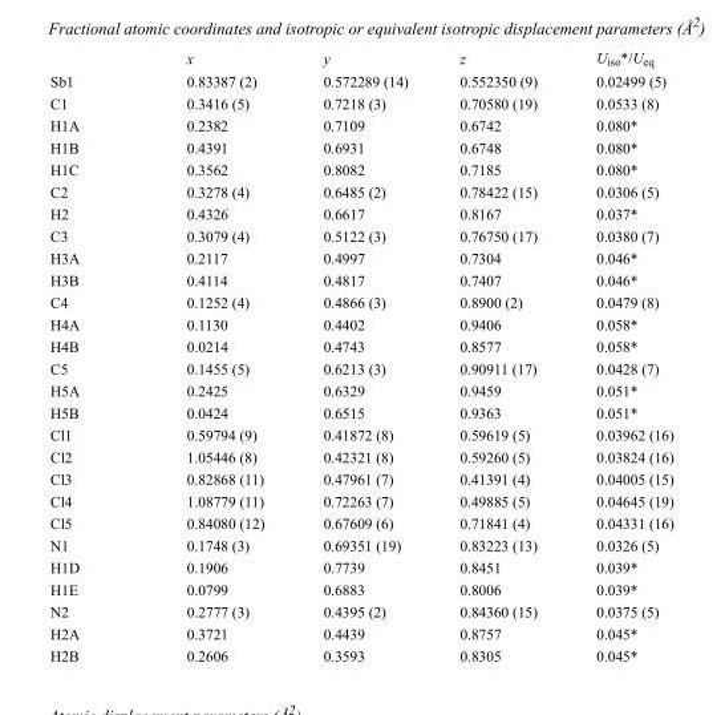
<table><thead><tr><td></td><td>x</td><td>y</td><td>z</td><td>U<sub>iso</sub>*/U<sub>eq</sub></td></tr></thead><tbody><tr><td>Sb1</td><td>0.83387 (2)</td><td>0.572289 (14)</td><td>0.552350 (9)</td><td>0.02499 (5)</td></tr><tr><td>C1</td><td>0.3416 (5)</td><td>0.7218 (3)</td><td>0.70580 (19)</td><td>0.0533 (8)</td></tr><tr><td>H1A</td><td>0.2382</td><td>0.7109</td><td>0.6742</td><td>0.080*</td></tr><tr><td>H1B</td><td>0.4391</td><td>0.6931</td><td>0.6748</td><td>0.080*</td></tr><tr><td>H1C</td><td>0.3562</td><td>0.8082</td><td>0.7185</td><td>0.080*</td></tr><tr><td>C2</td><td>0.3278 (4)</td><td>0.6485 (2)</td><td>0.78422 (15)</td><td>0.0306 (5)</td></tr><tr><td>H2</td><td>0.4326</td><td>0.6617</td><td>0.8167</td><td>0.037*</td></tr><tr><td>C3</td><td>0.3079 (4)</td><td>0.5122 (3)</td><td>0.76750 (17)</td><td>0.0380 (7)</td></tr><tr><td>H3A</td><td>0.2117</td><td>0.4997</td><td>0.7304</td><td>0.046*</td></tr><tr><td>H3B</td><td>0.4114</td><td>0.4817</td><td>0.7407</td><td>0.046*</td></tr><tr><td>C4</td><td>0.1252 (4)</td><td>0.4866 (3)</td><td>0.8900 (2)</td><td>0.0479 (8)</td></tr><tr><td>H4A</td><td>0.1130</td><td>0.4402</td><td>0.9406</td><td>0.058*</td></tr><tr><td>H4B</td><td>0.0214</td><td>0.4743</td><td>0.8577</td><td>0.058*</td></tr><tr><td>C5</td><td>0.1455 (5)</td><td>0.6213 (3)</td><td>0.90911 (17)</td><td>0.0428 (7)</td></tr><tr><td>H5A</td><td>0.2425</td><td>0.6329</td><td>0.9459</td><td>0.051*</td></tr><tr><td>H5B</td><td>0.0424</td><td>0.6515</td><td>0.9363</td><td>0.051*</td></tr><tr><td>Cl1</td><td>0.59794 (9)</td><td>0.41872 (8)</td><td>0.59619 (5)</td><td>0.03962 (16)</td></tr><tr><td>Cl2</td><td>1.05446 (8)</td><td>0.42321 (8)</td><td>0.59260 (5)</td><td>0.03824 (16)</td></tr><tr><td>Cl3</td><td>0.82868 (11)</td><td>0.47961 (7)</td><td>0.41391 (4)</td><td>0.04005 (15)</td></tr><tr><td>Cl4</td><td>1.08779 (11)</td><td>0.72263 (7)</td><td>0.49885 (5)</td><td>0.04645 (19)</td></tr><tr><td>Cl5</td><td>0.84080 (12)</td><td>0.67609 (6)</td><td>0.71841 (4)</td><td>0.04331 (16)</td></tr><tr><td>N1</td><td>0.1748 (3)</td><td>0.69351 (19)</td><td>0.83223 (13)</td><td>0.0326 (5)</td></tr><tr><td>H1D</td><td>0.1906</td><td>0.7739</td><td>0.8451</td><td>0.039*</td></tr><tr><td>H1E</td><td>0.0799</td><td>0.6883</td><td>0.8006</td><td>0.039*</td></tr><tr><td>N2</td><td>0.2777 (3)</td><td>0.4395 (2)</td><td>0.84360 (15)</td><td>0.0375 (5)</td></tr><tr><td>H2A</td><td>0.3721</td><td>0.4439</td><td>0.8757</td><td>0.045*</td></tr><tr><td>H2B</td><td>0.2606</td><td>0.3593</td><td>0.8305</td><td>0.045*</td></tr></tbody></table>